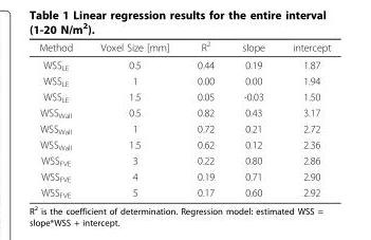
<table><thead><tr><td>Method</td><td>Voxel Size [mm]</td><td>R<sup>2</sup></td><td>slope</td><td>intercept</td></tr></thead><tbody><tr><td>WSS<sub>LE</sub></td><td>0.5</td><td>0.44</td><td>0.19</td><td>1.87</td></tr><tr><td>WSS<sub>LE</sub></td><td>1</td><td>0.00</td><td>0.00</td><td>1.94</td></tr><tr><td>WSS<sub>LE</sub></td><td>1.5</td><td>0.05</td><td>-0.03</td><td>1.50</td></tr><tr><td>WSS<sub>Wall</sub></td><td>0.5</td><td>0.82</td><td>0.43</td><td>3.17</td></tr><tr><td>WSS<sub>Wall</sub></td><td>1</td><td>0.72</td><td>0.21</td><td>2.72</td></tr><tr><td>WSS<sub>Wall</sub></td><td>1.5</td><td>0.62</td><td>0.12</td><td>2.36</td></tr><tr><td>WSS<sub>FVE</sub></td><td>3</td><td>0.22</td><td>0.80</td><td>2.86</td></tr><tr><td>WSS<sub>FVE</sub></td><td>4</td><td>0.19</td><td>0.71</td><td>2.90</td></tr><tr><td>WSS<sub>FVE</sub></td><td>5</td><td>0.17</td><td>0.60</td><td>2.92</td></tr></tbody></table>